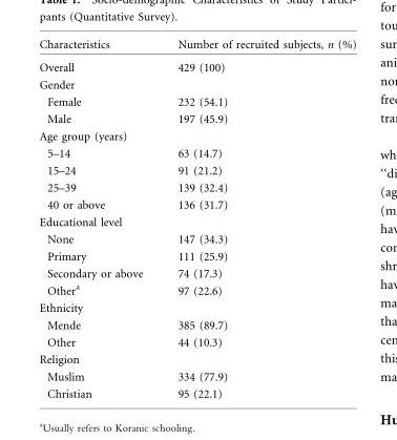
<table><thead><tr><td>Characteristics</td><td>Number of recruited subjects, n (%)</td></tr></thead><tbody><tr><td>Overall</td><td>429 (100)</td></tr><tr><td colspan="2">Gender</td></tr><tr><td>Female</td><td>232 (54.1)</td></tr><tr><td>Male</td><td>197 (45.9)</td></tr><tr><td colspan="2">Age group (years)</td></tr><tr><td>5–14</td><td>63 (14.7)</td></tr><tr><td>15–24</td><td>91 (21.2)</td></tr><tr><td>25–39</td><td>139 (32.4)</td></tr><tr><td>40 or above</td><td>136 (31.7)</td></tr><tr><td colspan="2">Educational level</td></tr><tr><td>None</td><td>147 (34.3)</td></tr><tr><td>Primary</td><td>111 (25.9)</td></tr><tr><td>Secondary or above</td><td>74 (17.3)</td></tr><tr><td>Other<sup>a</sup></td><td>97 (22.6)</td></tr><tr><td colspan="2">Ethnicity</td></tr><tr><td>Mende</td><td>385 (89.7)</td></tr><tr><td>Other</td><td>44 (10.3)</td></tr><tr><td colspan="2">Religion</td></tr><tr><td>Muslim</td><td>334 (77.9)</td></tr><tr><td>Christian</td><td>95 (22.1)</td></tr></tbody></table>